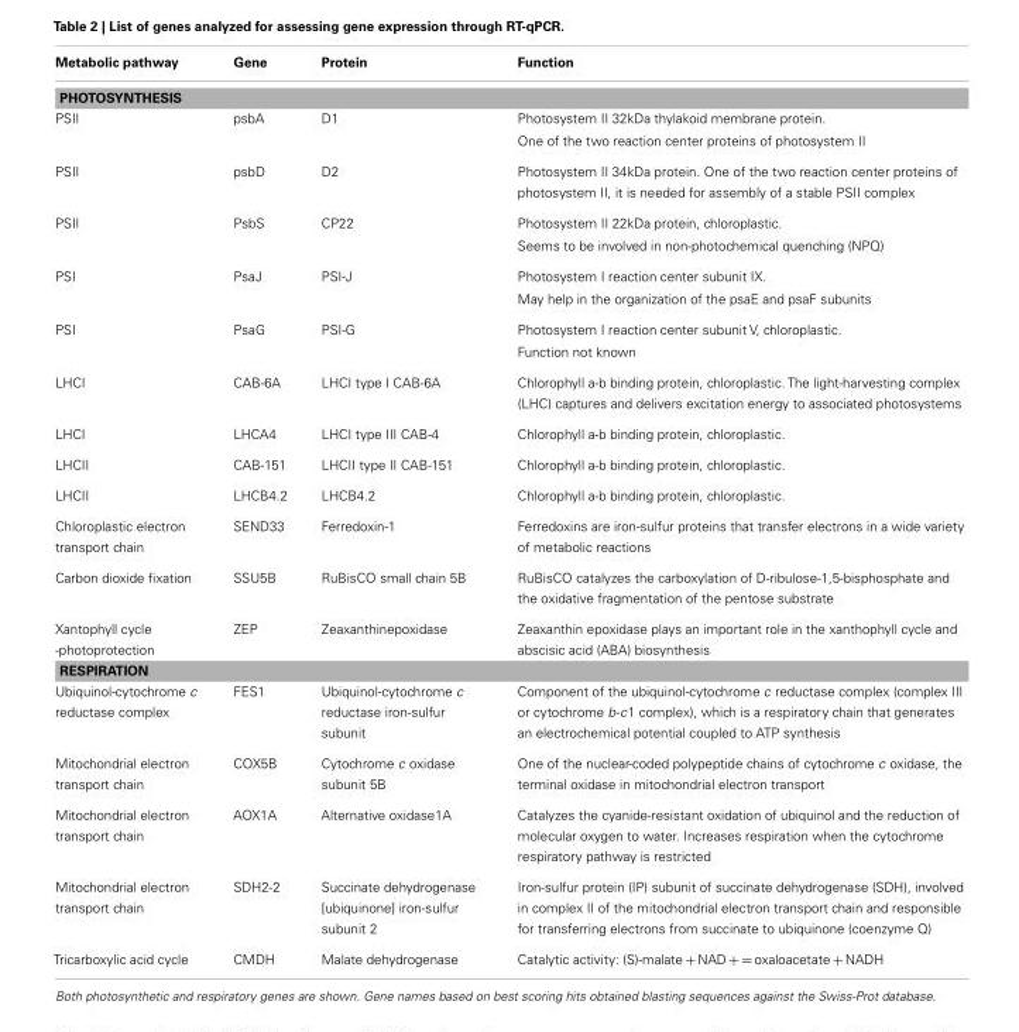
<table><thead><tr><td>Metabolic pathway</td><td>Gene</td><td>Protein</td><td>Function</td></tr></thead><tbody><tr><td colspan="4">PHOTOSYNTHESIS</td></tr><tr><td rowspan="2">PSII</td><td>psbA</td><td>D1</td><td>Photosystem II 32kDa thylakoid membrane protein.</td></tr><tr><td></td><td></td><td>One of the two reaction center proteins of photosystem II</td></tr><tr><td>PSII</td><td>psbD</td><td>D2</td><td>Photosystem II 34kDa protein. One of the two reaction center proteins of photosystem II, it is needed for assembly of a stable PSII complex</td></tr><tr><td rowspan="2">PSII</td><td>PsbS</td><td>CP22</td><td>Photosystem II 22kDa protein, chloroplastic.</td></tr><tr><td></td><td></td><td>Seems to be involved in non-photochemical quenching (NPQ)</td></tr><tr><td rowspan="2">PSI</td><td>PsaJ</td><td>PSI-J</td><td>Photosystem I reaction center subunit IX.</td></tr><tr><td></td><td></td><td>May help in the organization of the psaE and psaF subunits</td></tr><tr><td rowspan="2">PSI</td><td>PsaG</td><td>PSI-G</td><td>Photosystem I reaction center subunit V, chloroplastic.</td></tr><tr><td></td><td></td><td>Function not known</td></tr><tr><td>LHCI</td><td>CAB-6A</td><td>LHCI type I CAB-6A</td><td>Chlorophyll a-b binding protein, chloroplastic. The light-harvesting complex (LHC) captures and delivers excitation energy to associated photosystems</td></tr><tr><td>LHCI</td><td>LHCA4</td><td>LHCI type III CAB-4</td><td>Chlorophyll a-b binding protein, chloroplastic.</td></tr><tr><td>LHCII</td><td>CAB-151</td><td>LHCII type II CAB-151</td><td>Chlorophyll a-b binding protein, chloroplastic.</td></tr><tr><td>LHCII</td><td>LHCB4.2</td><td>LHCB4.2</td><td>Chlorophyll a-b binding protein, chloroplastic.</td></tr><tr><td>Chloroplastic electron transport chain</td><td>SEND33</td><td>Ferredoxin-1</td><td>Ferredoxins are iron-sulfur proteins that transfer electrons in a wide variety of metabolic reactions</td></tr><tr><td>Carbon dioxide fixation</td><td>SSU5B</td><td>RuBisCO small chain 5B</td><td>RuBisCO catalyzes the carboxylation of D-ribulose-1,5-bisphosphate and the oxidative fragmentation of the pentose substrate</td></tr><tr><td>Xantophyll cycle -photoprotection</td><td>ZEP</td><td>Zeaxanthinepoxidase</td><td>Zeaxanthin epoxidase plays an important role in the xanthophyll cycle and abscisic acid (ABA) biosynthesis</td></tr><tr><td colspan="4">RESPIRATION</td></tr><tr><td>Ubiquinol-cytochrome c reductase complex</td><td>FES1</td><td>Ubiquinol-cytochrome c reductase iron-sulfur subunit</td><td>Component of the ubiquinol-cytochrome c reductase complex (complex III or cytochrome b-c1 complex), which is a respiratory chain that generates an electrochemical potential coupled to ATP synthesis</td></tr><tr><td>Mitochondrial electron transport chain</td><td>COX5B</td><td>Cytochrome c oxidase subunit 5B</td><td>One of the nuclear-coded polypeptide chains of cytochrome c oxidase, the terminal oxidase in mitochondrial electron transport</td></tr><tr><td>Mitochondrial electron transport chain</td><td>AOX1A</td><td>Alternative oxidase1A</td><td>Catalyzes the cyanide-resistant oxidation of ubiquinol and the reduction of molecular oxygen to water. Increases respiration when the cytochrome respiratory pathway is restricted</td></tr><tr><td>Mitochondrial electron transport chain</td><td>SDH2-2</td><td>Succinate dehydrogenase [ubiquinone] iron-sulfur subunit 2</td><td>Iron-sulfur protein (IP) subunit of succinate dehydrogenase (SDH), involved in complex II of the mitochondrial electron transport chain and responsible for transferring electrons from succinate to ubiquinone (coenzyme Q)</td></tr><tr><td>Tricarboxylic acid cycle</td><td>CMDH</td><td>Malate dehydrogenase</td><td>Catalytic activity: (S)-malate + NAD + = oxaloacetate + NADH</td></tr></tbody></table>